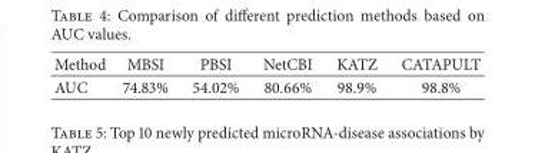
<table><thead><tr><td>Method</td><td>MBSI</td><td>PBSI</td><td>NetCBI</td><td>KATZ</td><td>CATAPULT</td></tr></thead><tbody><tr><td>AUC</td><td>74.83%</td><td>54.02%</td><td>80.66%</td><td>98.9%</td><td>98.8%</td></tr></tbody></table>